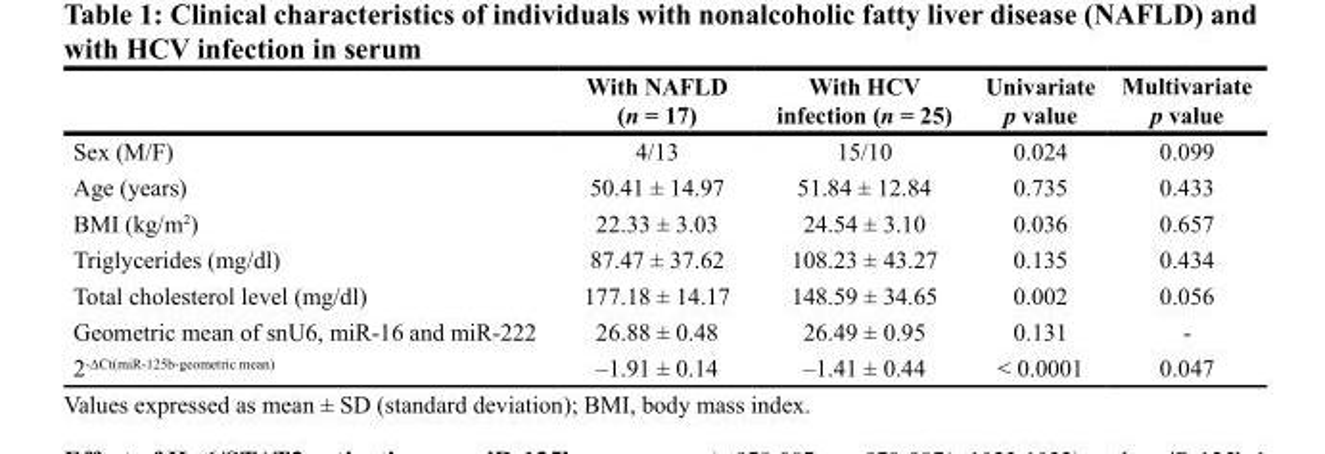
<table><thead><tr><td></td><td>With NAFLD (n = 17)</td><td>With HCV infection (n = 25)</td><td>Univariate p value</td><td>Multivariate p value</td></tr></thead><tbody><tr><td>Sex (M/F)</td><td>4/13</td><td>15/10</td><td>0.024</td><td>0.099</td></tr><tr><td>Age (years)</td><td>50.41 ± 14.97</td><td>51.84 ± 12.84</td><td>0.735</td><td>0.433</td></tr><tr><td>BMI (kg/m<sup>2</sup>)</td><td>22.33 ± 3.03</td><td>24.54 ± 3.10</td><td>0.036</td><td>0.657</td></tr><tr><td>Triglycerides (mg/dl)</td><td>87.47 ± 37.62</td><td>108.23 ± 43.27</td><td>0.135</td><td>0.434</td></tr><tr><td>Total cholesterol level (mg/dl)</td><td>177.18 ± 14.17</td><td>148.59 ± 34.65</td><td>0.002</td><td>0.056</td></tr><tr><td>Geometric mean of snU6, miR-16 and miR-222</td><td>26.88 ± 0.48</td><td>26.49 ± 0.95</td><td>0.131</td><td>-</td></tr><tr><td>2<sup>-ΔCt(miR-125b-geometric mean)</sup></td><td>–1.91 ± 0.14</td><td>–1.41 ± 0.44</td><td>&lt; 0.0001</td><td>0.047</td></tr></tbody></table>